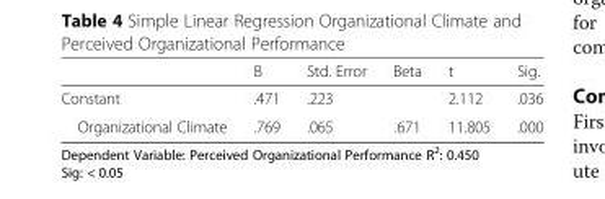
<table><thead><tr><td></td><td>B</td><td>Std. Error</td><td>Beta</td><td>t</td><td>Sig.</td></tr></thead><tbody><tr><td>Constant</td><td>.471</td><td>.223</td><td></td><td>2.112</td><td>.036</td></tr><tr><td>Organizational Climate</td><td>.769</td><td>.065</td><td>.671</td><td>11.805</td><td>.000</td></tr></tbody></table>